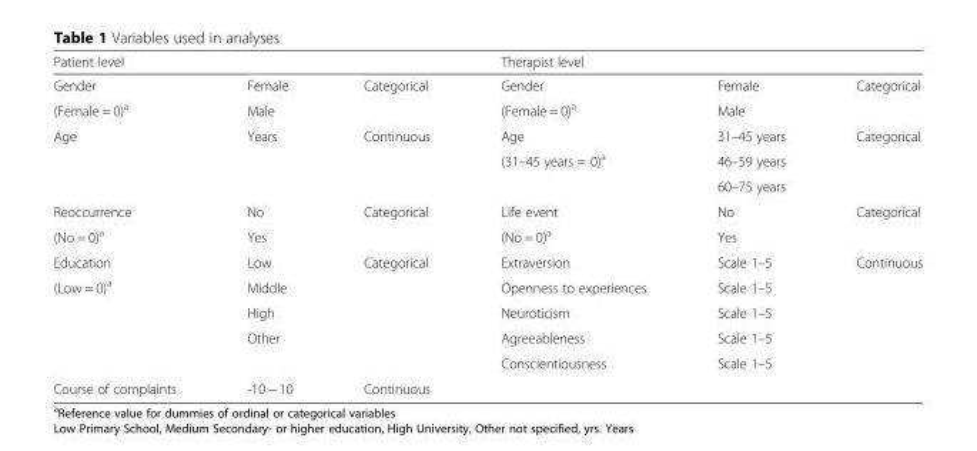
<table><thead><tr><td>Patient level</td><td></td><td></td><td>Therapist level</td><td></td><td></td></tr></thead><tbody><tr><td>Gender</td><td>Female</td><td rowspan="2">Categorical</td><td>Gender</td><td>Female</td><td rowspan="2">Categorical</td></tr><tr><td>(Female = 0)<sup>a</sup></td><td>Male</td><td>(Female = 0)<sup>a</sup></td><td>Male</td></tr><tr><td rowspan="3">Age</td><td>Years</td><td>Continuous</td><td>Age</td><td>31–45 years</td><td>Categorical</td></tr><tr><td></td><td></td><td>(31–45 years = 0)<sup>a</sup></td><td>46–59 years</td><td></td></tr><tr><td></td><td></td><td></td><td>60–75 years</td><td></td></tr><tr><td>Reoccurrence</td><td>No</td><td>Categorical</td><td>Life event</td><td>No</td><td>Categorical</td></tr><tr><td>(No = 0)<sup>a</sup></td><td>Yes</td><td></td><td>(No = 0)<sup>a</sup></td><td>Yes</td><td></td></tr><tr><td>Education</td><td>Low</td><td>Categorical</td><td>Extraversion</td><td>Scale 1–5</td><td>Continuous</td></tr><tr><td rowspan="4">(Low = 0)<sup>a</sup></td><td>Middle</td><td></td><td>Openness to experiences</td><td>Scale 1–5</td><td></td></tr><tr><td>High</td><td></td><td>Neuroticism</td><td>Scale 1–5</td><td></td></tr><tr><td>Other</td><td></td><td>Agreeableness</td><td>Scale 1–5</td><td></td></tr><tr><td></td><td></td><td>Conscientiousness</td><td>Scale 1–5</td><td></td></tr><tr><td>Course of complaints</td><td>-10 − 10</td><td>Continuous</td><td></td><td></td><td></td></tr></tbody></table>